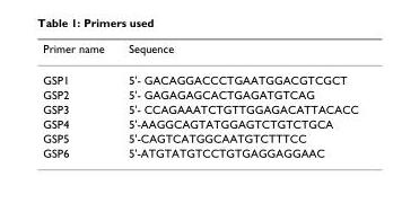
<table><thead><tr><td>Primer name</td><td>Sequence</td></tr></thead><tbody><tr><td>GSP1</td><td>5&#x27;- GACAGGACCCTGAATGGACGTCGCT</td></tr><tr><td>GSP2</td><td>5&#x27;- GAGAGAGCACTGAGATGTCAG</td></tr><tr><td>GSP3</td><td>5&#x27;- CCAGAAATCTGTTGGAGACATTACACC</td></tr><tr><td>GSP4</td><td>5&#x27;-AAGGCAGTATGGAGTCTGTCTGCA</td></tr><tr><td>GSP5</td><td>5&#x27;-CAGTCATGGCAATGTCTTTCC</td></tr><tr><td>GSP6</td><td>5&#x27;-ATGTATGTCCTGTGAGGAGGAAC</td></tr></tbody></table>